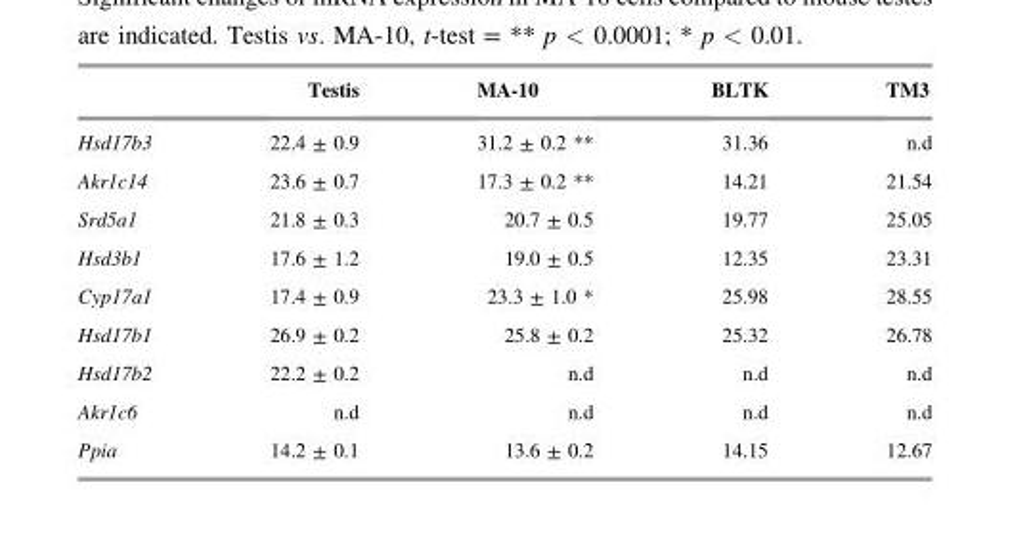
<table><thead><tr><td></td><td>Testis</td><td>MA-10</td><td>BLTK</td><td>TM3</td></tr></thead><tbody><tr><td>Hsd17b3</td><td>22.4 ± 0.9</td><td>31.2 ± 0.2 **</td><td>31.36</td><td>n.d</td></tr><tr><td>Akr1c14</td><td>23.6 ± 0.7</td><td>17.3 ± 0.2 **</td><td>14.21</td><td>21.54</td></tr><tr><td>Srd5a1</td><td>21.8 ± 0.3</td><td>20.7 ± 0.5</td><td>19.77</td><td>25.05</td></tr><tr><td>Hsd3b1</td><td>17.6 ± 1.2</td><td>19.0 ± 0.5</td><td>12.35</td><td>23.31</td></tr><tr><td>Cyp17a1</td><td>17.4 ± 0.9</td><td>23.3 ± 1.0 *</td><td>25.98</td><td>28.55</td></tr><tr><td>Hsd17b1</td><td>26.9 ± 0.2</td><td>25.8 ± 0.2</td><td>25.32</td><td>26.78</td></tr><tr><td>Hsd17b2</td><td>22.2 ± 0.2</td><td>n.d</td><td>n.d</td><td>n.d</td></tr><tr><td>Akr1c6</td><td>n.d</td><td>n.d</td><td>n.d</td><td>n.d</td></tr><tr><td>Ppia</td><td>14.2 ± 0.1</td><td>13.6 ± 0.2</td><td>14.15</td><td>12.67</td></tr></tbody></table>